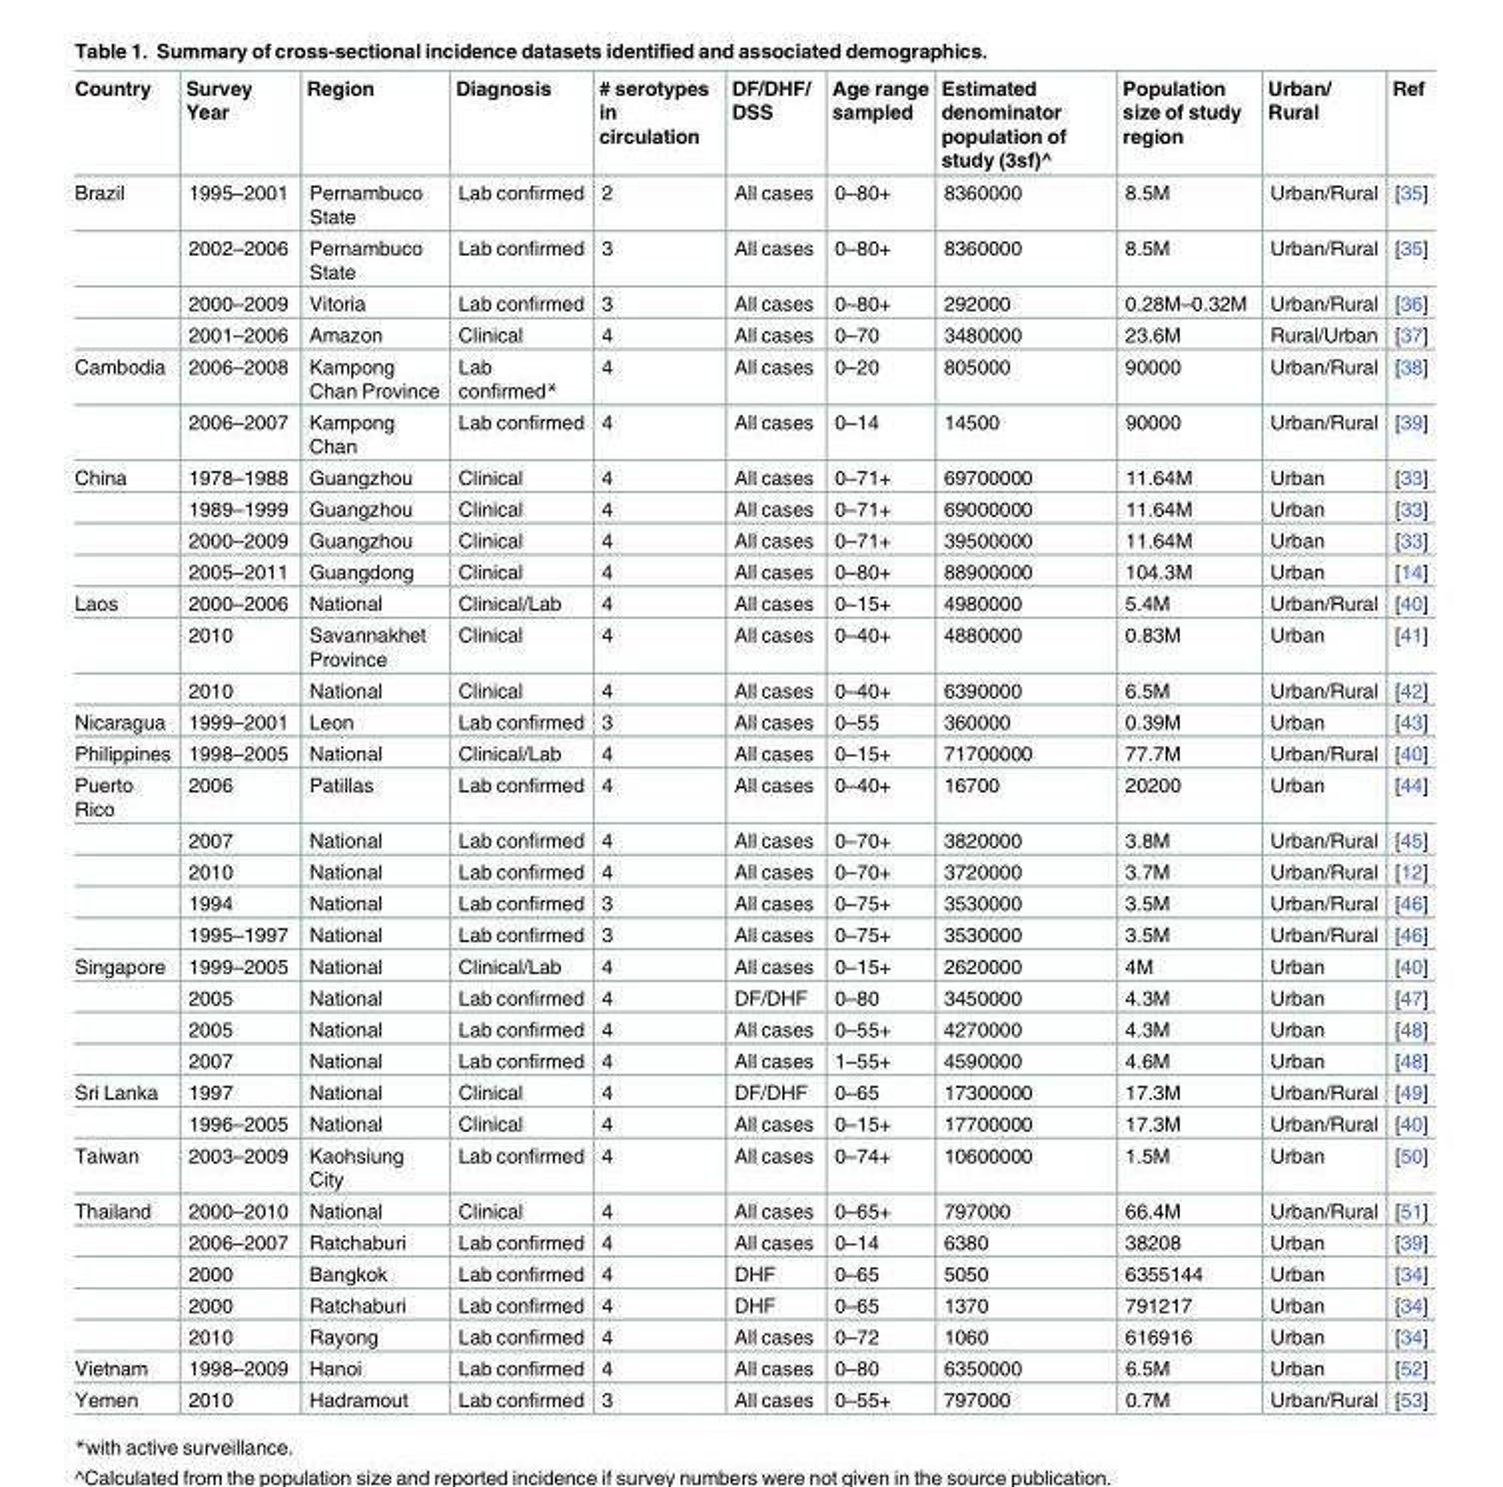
<table><thead><tr><td>Country</td><td>Survey Year</td><td>Region</td><td>Diagnosis</td><td># serotypes in circulation</td><td>DF/DHF/ DSS</td><td>Age range sampled</td><td>Estimated denominator population of study (3sf)^</td><td>Population size of study region</td><td>Urban/ Rural</td><td>Ref</td></tr></thead><tbody><tr><td rowspan="4">Brazil</td><td>1995–2001</td><td>Pernambuco State</td><td>Lab confirmed</td><td>2</td><td>All cases</td><td>0–80+</td><td>8360000</td><td>8.5M</td><td>Urban/Rural</td><td>[35]</td></tr><tr><td>2002–2006</td><td>Pernambuco State</td><td>Lab confirmed</td><td>3</td><td>All cases</td><td>0–80+</td><td>8360000</td><td>8.5M</td><td>Urban/Rural</td><td>[35]</td></tr><tr><td>2000–2009</td><td>Vitoria</td><td>Lab confirmed</td><td>3</td><td>All cases</td><td>0–80+</td><td>292000</td><td>0.28M–0.32M</td><td>Urban/Rural</td><td>[36]</td></tr><tr><td>2001–2006</td><td>Amazon</td><td>Clinical</td><td>4</td><td>All cases</td><td>0–70</td><td>3480000</td><td>23.6M</td><td>Rural/Urban</td><td>[37]</td></tr><tr><td rowspan="2">Cambodia</td><td>2006–2008</td><td>Kampong Chan Province</td><td>Lab confirmed*</td><td>4</td><td>All cases</td><td>0–20</td><td>805000</td><td>90000</td><td>Urban/Rural</td><td>[38]</td></tr><tr><td>2006–2007</td><td>Kampong Chan</td><td>Lab confirmed</td><td>4</td><td>All cases</td><td>0–14</td><td>14500</td><td>90000</td><td>Urban/Rural</td><td>[39]</td></tr><tr><td rowspan="4">China</td><td>1978–1988</td><td>Guangzhou</td><td>Clinical</td><td>4</td><td>All cases</td><td>0–71+</td><td>69700000</td><td>11.64M</td><td>Urban</td><td>[33]</td></tr><tr><td>1989–1999</td><td>Guangzhou</td><td>Clinical</td><td>4</td><td>All cases</td><td>0–71+</td><td>69000000</td><td>11.64M</td><td>Urban</td><td>[33]</td></tr><tr><td>2000–2009</td><td>Guangzhou</td><td>Clinical</td><td>4</td><td>All cases</td><td>0–71+</td><td>39500000</td><td>11.64M</td><td>Urban</td><td>[33]</td></tr><tr><td>2005–2011</td><td>Guangdong</td><td>Clinical</td><td>4</td><td>All cases</td><td>0–80+</td><td>88900000</td><td>104.3M</td><td>Urban</td><td>[14]</td></tr><tr><td rowspan="3">Laos</td><td>2000–2006</td><td>National</td><td>Clinical/Lab</td><td>4</td><td>All cases</td><td>0–15+</td><td>4980000</td><td>5.4M</td><td>Urban/Rural</td><td>[40]</td></tr><tr><td>2010</td><td>Savannakhet Province</td><td>Clinical</td><td>4</td><td>All cases</td><td>0–40+</td><td>4880000</td><td>0.83M</td><td>Urban</td><td>[41]</td></tr><tr><td>2010</td><td>National</td><td>Clinical</td><td>4</td><td>All cases</td><td>0–40+</td><td>6390000</td><td>6.5M</td><td>Urban/Rural</td><td>[42]</td></tr><tr><td>Nicaragua</td><td>1999–2001</td><td>Leon</td><td>Lab confirmed</td><td>3</td><td>All cases</td><td>0–55</td><td>360000</td><td>0.39M</td><td>Urban</td><td>[43]</td></tr><tr><td>Philippines</td><td>1998–2005</td><td>National</td><td>Clinical/Lab</td><td>4</td><td>All cases</td><td>0–15+</td><td>71700000</td><td>77.7M</td><td>Urban/Rural</td><td>[40]</td></tr><tr><td rowspan="5">Puerto Rico</td><td>2006</td><td>Patillas</td><td>Lab confirmed</td><td>4</td><td>All cases</td><td>0–40+</td><td>16700</td><td>20200</td><td>Urban</td><td>[44]</td></tr><tr><td>2007</td><td>National</td><td>Lab confirmed</td><td>4</td><td>All cases</td><td>0–70+</td><td>3820000</td><td>3.8M</td><td>Urban/Rural</td><td>[45]</td></tr><tr><td>2010</td><td>National</td><td>Lab confirmed</td><td>4</td><td>All cases</td><td>0–70+</td><td>3720000</td><td>3.7M</td><td>Urban/Rural</td><td>[12]</td></tr><tr><td>1994</td><td>National</td><td>Lab confirmed</td><td>3</td><td>All cases</td><td>0–75+</td><td>3530000</td><td>3.5M</td><td>Urban/Rural</td><td>[46]</td></tr><tr><td>1995–1997</td><td>National</td><td>Lab confirmed</td><td>3</td><td>All cases</td><td>0–75+</td><td>3530000</td><td>3.5M</td><td>Urban/Rural</td><td>[46]</td></tr><tr><td rowspan="4">Singapore</td><td>1999–2005</td><td>National</td><td>Clinical/Lab</td><td>4</td><td>All cases</td><td>0–15+</td><td>2620000</td><td>4M</td><td>Urban</td><td>[40]</td></tr><tr><td>2005</td><td>National</td><td>Lab confirmed</td><td>4</td><td>DF/DHF</td><td>0–80</td><td>3450000</td><td>4.3M</td><td>Urban</td><td>[47]</td></tr><tr><td>2005</td><td>National</td><td>Lab confirmed</td><td>4</td><td>All cases</td><td>0–55+</td><td>4270000</td><td>4.3M</td><td>Urban</td><td>[48]</td></tr><tr><td>2007</td><td>National</td><td>Lab confirmed</td><td>4</td><td>All cases</td><td>1–55+</td><td>4590000</td><td>4.6M</td><td>Urban</td><td>[48]</td></tr><tr><td rowspan="2">Sri Lanka</td><td>1997</td><td>National</td><td>Clinical</td><td>4</td><td>DF/DHF</td><td>0–65</td><td>17300000</td><td>17.3M</td><td>Urban/Rural</td><td>[49]</td></tr><tr><td>1996–2005</td><td>National</td><td>Clinical</td><td>4</td><td>All cases</td><td>0–15+</td><td>17700000</td><td>17.3M</td><td>Urban/Rural</td><td>[40]</td></tr><tr><td>Taiwan</td><td>2003–2009</td><td>Kaohsiung City</td><td>Lab confirmed</td><td>4</td><td>All cases</td><td>0–74+</td><td>10600000</td><td>1.5M</td><td>Urban</td><td>[50]</td></tr><tr><td rowspan="5">Thailand</td><td>2000–2010</td><td>National</td><td>Clinical</td><td>4</td><td>All cases</td><td>0–65+</td><td>797000</td><td>66.4M</td><td>Urban/Rural</td><td>[51]</td></tr><tr><td>2006–2007</td><td>Ratchaburi</td><td>Lab confirmed</td><td>4</td><td>All cases</td><td>0–14</td><td>6380</td><td>38208</td><td>Urban</td><td>[39]</td></tr><tr><td>2000</td><td>Bangkok</td><td>Lab confirmed</td><td>4</td><td>DHF</td><td>0–65</td><td>5050</td><td>6355144</td><td>Urban</td><td>[34]</td></tr><tr><td>2000</td><td>Ratchaburi</td><td>Lab confirmed</td><td>4</td><td>DHF</td><td>0–65</td><td>1370</td><td>791217</td><td>Urban</td><td>[34]</td></tr><tr><td>2010</td><td>Rayong</td><td>Lab confirmed</td><td>4</td><td>All cases</td><td>0–72</td><td>1060</td><td>616916</td><td>Urban</td><td>[34]</td></tr><tr><td>Vietnam</td><td>1998–2009</td><td>Hanoi</td><td>Lab confirmed</td><td>4</td><td>All cases</td><td>0–80</td><td>6350000</td><td>6.5M</td><td>Urban</td><td>[52]</td></tr><tr><td>Yemen</td><td>2010</td><td>Hadramout</td><td>Lab confirmed</td><td>3</td><td>All cases</td><td>0–55+</td><td>797000</td><td>0.7M</td><td>Urban/Rural</td><td>[53]</td></tr></tbody></table>